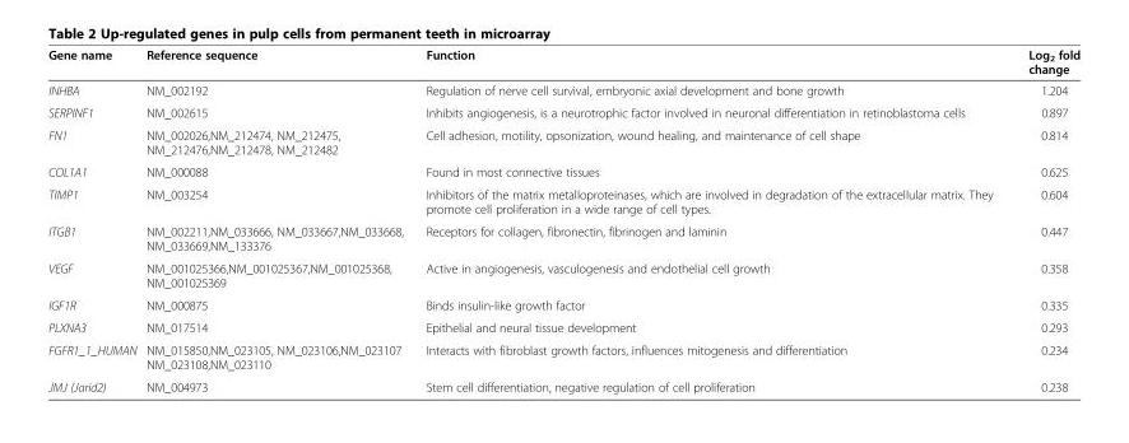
<table><thead><tr><td>Gene name</td><td>Reference sequence</td><td>Function</td><td>Log<sub>2</sub> fold change</td></tr></thead><tbody><tr><td>INHBA</td><td>NM_002192</td><td>Regulation of nerve cell survival, embryonic axial development and bone growth</td><td>1.204</td></tr><tr><td>SERPINF1</td><td>NM_002615</td><td>Inhibits angiogenesis, is a neurotrophic factor involved in neuronal differentiation in retinoblastoma cells</td><td>0.897</td></tr><tr><td>FN1</td><td>NM_002026,NM_212474, NM_212475, NM_212476,NM_212478, NM_212482</td><td>Cell adhesion, motility, opsonization, wound healing, and maintenance of cell shape</td><td>0.814</td></tr><tr><td>COL1A1</td><td>NM_000088</td><td>Found in most connective tissues</td><td>0.625</td></tr><tr><td>TIMP1</td><td>NM_003254</td><td>Inhibitors of the matrix metalloproteinases, which are involved in degradation of the extracellular matrix. They promote cell proliferation in a wide range of cell types.</td><td>0.604</td></tr><tr><td>ITGB1</td><td>NM_002211,NM_033666, NM_033667,NM_033668, NM_033669,NM_133376</td><td>Receptors for collagen, fibronectin, fibrinogen and laminin</td><td>0.447</td></tr><tr><td>VEGF</td><td>NM_001025366,NM_001025367,NM_001025368, NM_001025369</td><td>Active in angiogenesis, vasculogenesis and endothelial cell growth</td><td>0.358</td></tr><tr><td>IGF1R</td><td>NM_000875</td><td>Binds insulin-like growth factor</td><td>0.335</td></tr><tr><td>PLXNA3</td><td>NM_017514</td><td>Epithelial and neural tissue development</td><td>0.293</td></tr><tr><td>FGFR1_1_HUMAN</td><td>NM_015850,NM_023105, NM_023106,NM_023107 NM_023108,NM_023110</td><td>Interacts with fibroblast growth factors, influences mitogenesis and differentiation</td><td>0.234</td></tr><tr><td>JMJ (Jarid2)</td><td>NM_004973</td><td>Stem cell differentiation, negative regulation of cell proliferation</td><td>0.238</td></tr></tbody></table>